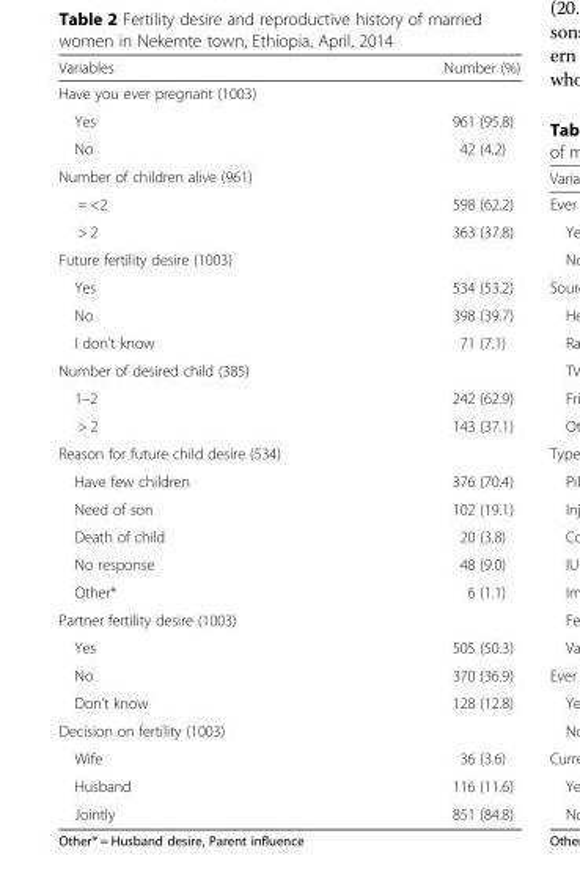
<table><thead><tr><td>Variables</td><td>Number (%)</td></tr></thead><tbody><tr><td colspan="2">Have you ever pregnant (1003)</td></tr><tr><td>Yes</td><td>961 (95.8)</td></tr><tr><td>No</td><td>42 (4.2)</td></tr><tr><td colspan="2">Number of children alive (961)</td></tr><tr><td>= &lt;2</td><td>598 (62.2)</td></tr><tr><td>&gt; 2</td><td>363 (37.8)</td></tr><tr><td colspan="2">Future fertility desire (1003)</td></tr><tr><td>Yes</td><td>534 (53.2)</td></tr><tr><td>No</td><td>398 (39.7)</td></tr><tr><td>I don’t know</td><td>71 (7.1)</td></tr><tr><td colspan="2">Number of desired child (385)</td></tr><tr><td>1–2</td><td>242 (62.9)</td></tr><tr><td>&gt; 2</td><td>143 (37.1)</td></tr><tr><td colspan="2">Reason for future child desire (534)</td></tr><tr><td>Have few children</td><td>376 (70.4)</td></tr><tr><td>Need of son</td><td>102 (19.1)</td></tr><tr><td>Death of child</td><td>20 (3.8)</td></tr><tr><td>No response</td><td>48 (9.0)</td></tr><tr><td>Other*</td><td>6 (1.1)</td></tr><tr><td colspan="2">Partner fertility desire (1003)</td></tr><tr><td>Yes</td><td>505 (50.3)</td></tr><tr><td>No</td><td>370 (36.9)</td></tr><tr><td>Don’t know</td><td>128 (12.8)</td></tr><tr><td colspan="2">Decision on fertility (1003)</td></tr><tr><td>Wife</td><td>36 (3.6)</td></tr><tr><td>Husband</td><td>116 (11.6)</td></tr><tr><td>Jointly</td><td>851 (84.8)</td></tr></tbody></table>